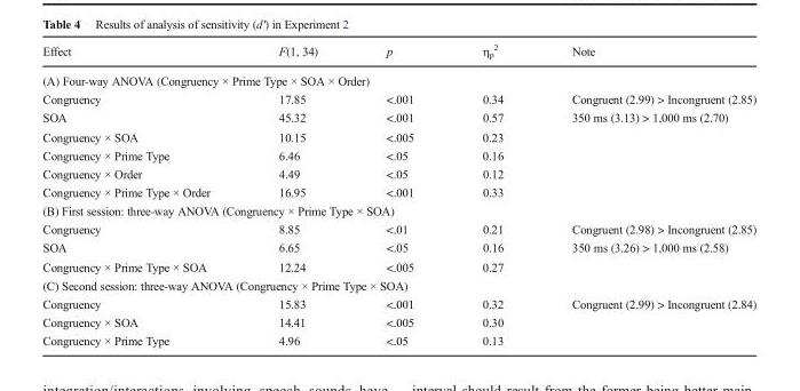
<table><thead><tr><td>Effect</td><td>F(1, 34)</td><td>p</td><td>η<sub>p</sub> <sup>2</sup></td><td>Note</td></tr></thead><tbody><tr><td colspan="5">(A) Four-way ANOVA (Congruency × Prime Type × SOA × Order)</td></tr><tr><td>Congruency</td><td>17.85</td><td>&lt;.001</td><td>0.34</td><td>Congruent (2.99) &gt; Incongruent (2.85)</td></tr><tr><td>SOA</td><td>45.32</td><td>&lt;.001</td><td>0.57</td><td>350 ms (3.13) &gt; 1,000 ms (2.70)</td></tr><tr><td>Congruency × SOA</td><td>10.15</td><td>&lt;.005</td><td>0.23</td><td></td></tr><tr><td>Congruency × Prime Type</td><td>6.46</td><td>&lt;.05</td><td>0.16</td><td></td></tr><tr><td>Congruency × Order</td><td>4.49</td><td>&lt;.05</td><td>0.12</td><td></td></tr><tr><td>Congruency × Prime Type × Order</td><td>16.95</td><td>&lt;.001</td><td>0.33</td><td></td></tr><tr><td colspan="5">(B) First session: three-way ANOVA (Congruency × Prime Type × SOA)</td></tr><tr><td>Congruency</td><td>8.85</td><td>&lt;.01</td><td>0.21</td><td>Congruent (2.98) &gt; Incongruent (2.85)</td></tr><tr><td>SOA</td><td>6.65</td><td>&lt;.05</td><td>0.16</td><td>350 ms (3.26) &gt; 1,000 ms (2.58)</td></tr><tr><td>Congruency × Prime Type × SOA</td><td>12.24</td><td>&lt;.005</td><td>0.27</td><td></td></tr><tr><td colspan="5">(C) Second session: three-way ANOVA (Congruency × Prime Type × SOA)</td></tr><tr><td>Congruency</td><td>15.83</td><td>&lt;.001</td><td>0.32</td><td>Congruent (2.99) &gt; Incongruent (2.84)</td></tr><tr><td>Congruency × SOA</td><td>14.41</td><td>&lt;.005</td><td>0.30</td><td></td></tr><tr><td>Congruency × Prime Type</td><td>4.96</td><td>&lt;.05</td><td>0.13</td><td></td></tr></tbody></table>